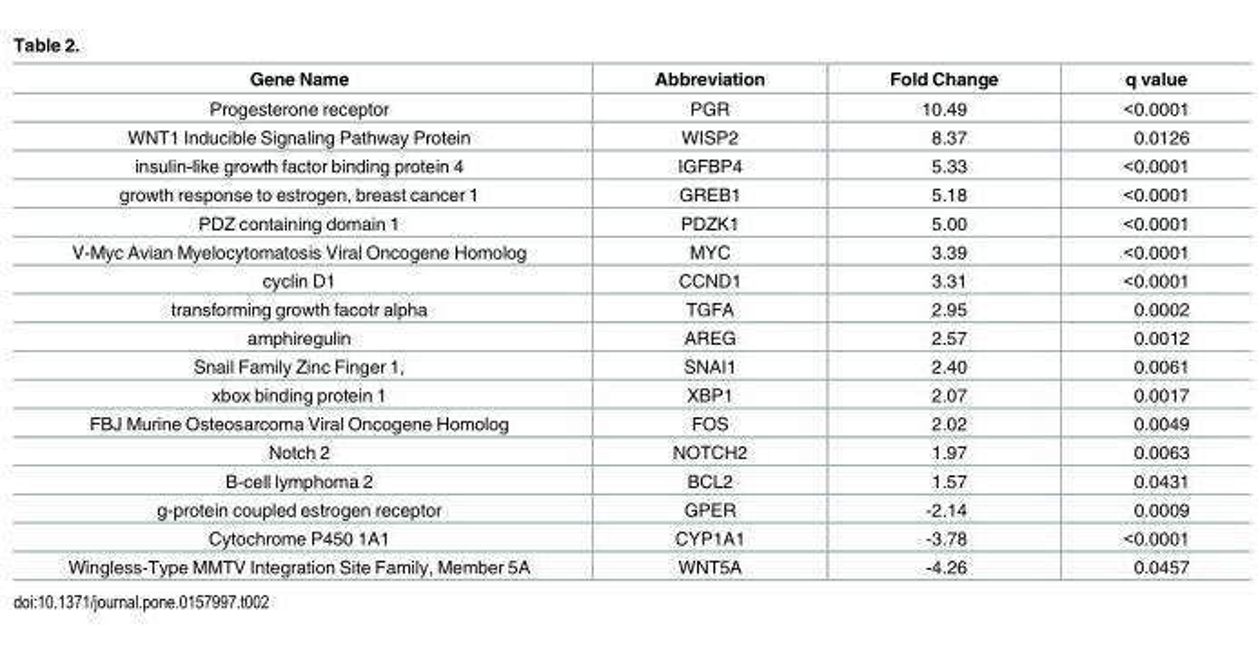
<table><thead><tr><td>Gene Name</td><td>Abbreviation</td><td>Fold Change</td><td>q value</td></tr></thead><tbody><tr><td>Progesterone receptor</td><td>PGR</td><td>10.49</td><td>&lt;0.0001</td></tr><tr><td>WNT1 Inducible Signaling Pathway Protein</td><td>WISP2</td><td>8.37</td><td>0.0126</td></tr><tr><td>insulin-like growth factor binding protein 4</td><td>IGFBP4</td><td>5.33</td><td>&lt;0.0001</td></tr><tr><td>growth response to estrogen, breast cancer 1</td><td>GREB1</td><td>5.18</td><td>&lt;0.0001</td></tr><tr><td>PDZ containing domain 1</td><td>PDZK1</td><td>5.00</td><td>&lt;0.0001</td></tr><tr><td>V-Myc Avian Myelocytomatosis Viral Oncogene Homolog</td><td>MYC</td><td>3.39</td><td>&lt;0.0001</td></tr><tr><td>cyclin D1</td><td>CCND1</td><td>3.31</td><td>&lt;0.0001</td></tr><tr><td>transforming growth facotr alpha</td><td>TGFA</td><td>2.95</td><td>0.0002</td></tr><tr><td>amphiregulin</td><td>AREG</td><td>2.57</td><td>0.0012</td></tr><tr><td>Snail Family Zinc Finger 1,</td><td>SNAI1</td><td>2.40</td><td>0.0061</td></tr><tr><td>xbox binding protein 1</td><td>XBP1</td><td>2.07</td><td>0.0017</td></tr><tr><td>FBJ Murine Osteosarcoma Viral Oncogene Homolog</td><td>FOS</td><td>2.02</td><td>0.0049</td></tr><tr><td>Notch 2</td><td>NOTCH2</td><td>1.97</td><td>0.0063</td></tr><tr><td>B-cell lymphoma 2</td><td>BCL2</td><td>1.57</td><td>0.0431</td></tr><tr><td>g-protein coupled estrogen receptor</td><td>GPER</td><td>-2.14</td><td>0.0009</td></tr><tr><td>Cytochrome P450 1A1</td><td>CYP1A1</td><td>-3.78</td><td>&lt;0.0001</td></tr><tr><td>Wingless-Type MMTV Integration Site Family, Member 5A</td><td>WNT5A</td><td>-4.26</td><td>0.0457</td></tr></tbody></table>